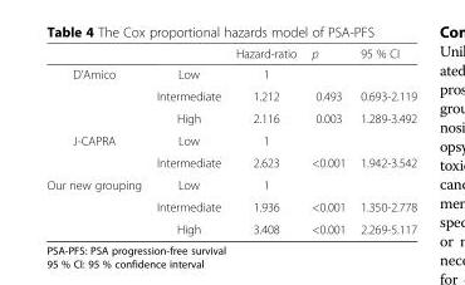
<table><thead><tr><td></td><td></td><td>Hazard-ratio</td><td>p</td><td>95 % CI</td></tr></thead><tbody><tr><td rowspan="3">D’Amico</td><td>Low</td><td>1</td><td></td><td></td></tr><tr><td>Intermediate</td><td>1.212</td><td>0.493</td><td>0.693-2.119</td></tr><tr><td>High</td><td>2.116</td><td>0.003</td><td>1.289-3.492</td></tr><tr><td rowspan="2">J-CAPRA</td><td>Low</td><td>1</td><td></td><td></td></tr><tr><td>Intermediate</td><td>2.623</td><td>&lt;0.001</td><td>1.942-3.542</td></tr><tr><td rowspan="3">Our new grouping</td><td>Low</td><td>1</td><td></td><td></td></tr><tr><td>Intermediate</td><td>1.936</td><td>&lt;0.001</td><td>1.350-2.778</td></tr><tr><td>High</td><td>3.408</td><td>&lt;0.001</td><td>2.269-5.117</td></tr></tbody></table>